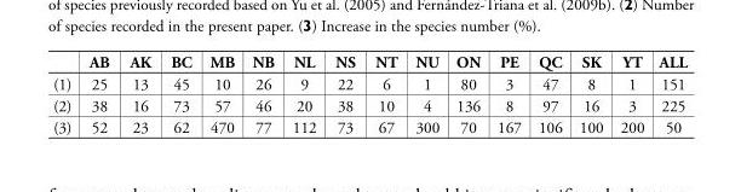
<table><thead><tr><td></td><td>AB</td><td>AK</td><td>BC</td><td>MB</td><td>NB</td><td>NL</td><td>NS</td><td>NT</td><td>NU</td><td>ON</td><td>PE</td><td>QC</td><td>SK</td><td>YT</td><td>ALL</td></tr></thead><tbody><tr><td>(1)</td><td>25</td><td>13</td><td>45</td><td>10</td><td>26</td><td>9</td><td>22</td><td>6</td><td>1</td><td>80</td><td>3</td><td>47</td><td>8</td><td>1</td><td>151</td></tr><tr><td>(2)</td><td>38</td><td>16</td><td>73</td><td>57</td><td>46</td><td>20</td><td>38</td><td>10</td><td>4</td><td>136</td><td>8</td><td>97</td><td>16</td><td>3</td><td>225</td></tr><tr><td>(3)</td><td>52</td><td>23</td><td>62</td><td>470</td><td>77</td><td>112</td><td>73</td><td>67</td><td>300</td><td>70</td><td>167</td><td>106</td><td>100</td><td>200</td><td>50</td></tr></tbody></table>